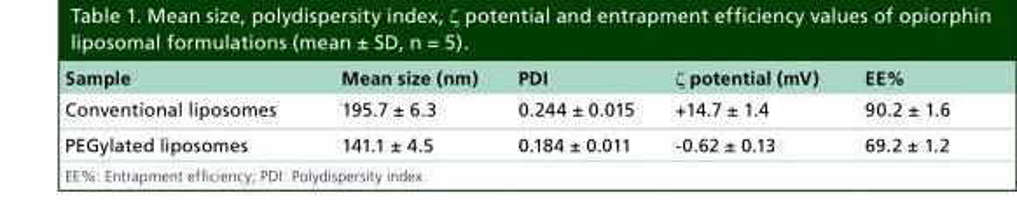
<table><thead><tr><td>Sample</td><td>Mean size (nm)</td><td>PDI</td><td>ζ potential (mV)</td><td>EE%</td></tr></thead><tbody><tr><td>Conventional liposomes</td><td>195.7 ± 6.3</td><td>0.244 ± 0.015</td><td>+14.7 ± 1.4</td><td>90.2 ± 1.6</td></tr><tr><td>PEGylated liposomes</td><td>141.1 ± 4.5</td><td>0.184 ± 0.011</td><td>-0.62 ± 0.13</td><td>69.2 ± 1.2</td></tr></tbody></table>